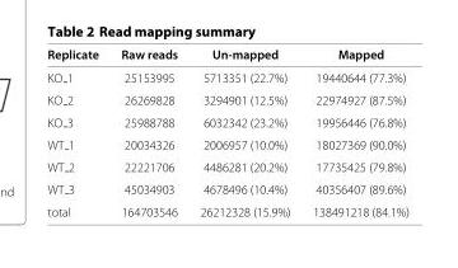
<table><thead><tr><td>Replicate</td><td>Raw reads</td><td>Un-mapped</td><td>Mapped</td></tr></thead><tbody><tr><td>KO 1</td><td>25153995</td><td>5713351 (22.7%)</td><td>19440644 (77.3%)</td></tr><tr><td>KO 2</td><td>26269828</td><td>3294901 (12.5%)</td><td>22974927 (87.5%)</td></tr><tr><td>KO 3</td><td>25988788</td><td>6032342 (23.2%)</td><td>19956446 (76.8%)</td></tr><tr><td>WT 1</td><td>20034326</td><td>2006957 (10.0%)</td><td>18027369 (90.0%)</td></tr><tr><td>WT 2</td><td>22221706</td><td>4486281 (20.2%)</td><td>17735425 (79.8%)</td></tr><tr><td>WT 3</td><td>45034903</td><td>4678496 (10.4%)</td><td>40356407 (89.6%)</td></tr><tr><td>total</td><td>164703546</td><td>26212328 (15.9%)</td><td>138491218 (84.1%)</td></tr></tbody></table>